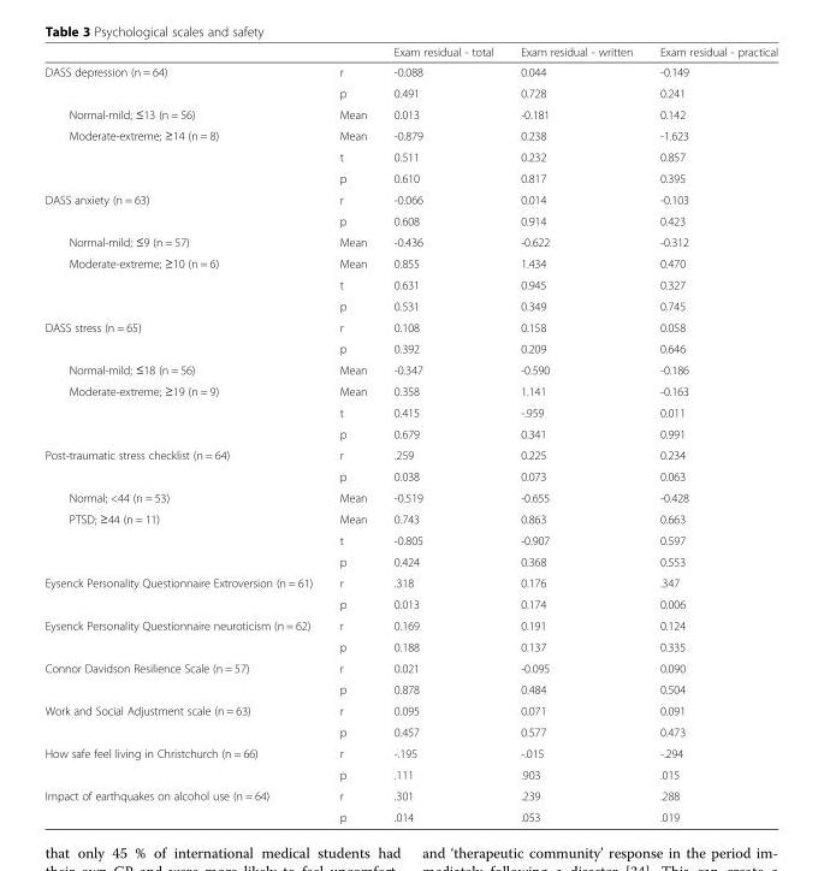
<table><thead><tr><td></td><td></td><td>Exam residual - total</td><td>Exam residual - written</td><td>Exam residual - practical</td></tr></thead><tbody><tr><td rowspan="2">DASS depression (n = 64)</td><td>r</td><td>-0.088</td><td>0.044</td><td>-0.149</td></tr><tr><td>p</td><td>0.491</td><td>0.728</td><td>0.241</td></tr><tr><td>Normal-mild; ≤13 (n = 56)</td><td>Mean</td><td>0.013</td><td>-0.181</td><td>0.142</td></tr><tr><td rowspan="3">Moderate-extreme; ≥14 (n = 8)</td><td>Mean</td><td>-0.879</td><td>0.238</td><td>-1.623</td></tr><tr><td>t</td><td>0.511</td><td>0.232</td><td>0.857</td></tr><tr><td>p</td><td>0.610</td><td>0.817</td><td>0.395</td></tr><tr><td rowspan="2">DASS anxiety (n = 63)</td><td>r</td><td>-0.066</td><td>0.014</td><td>-0.103</td></tr><tr><td>p</td><td>0.608</td><td>0.914</td><td>0.423</td></tr><tr><td>Normal-mild; ≤9 (n = 57)</td><td>Mean</td><td>-0.436</td><td>-0.622</td><td>-0.312</td></tr><tr><td rowspan="3">Moderate-extreme; ≥10 (n = 6)</td><td>Mean</td><td>0.855</td><td>1.434</td><td>0.470</td></tr><tr><td>t</td><td>0.631</td><td>0.945</td><td>0.327</td></tr><tr><td>p</td><td>0.531</td><td>0.349</td><td>0.745</td></tr><tr><td rowspan="2">DASS stress (n = 65)</td><td>r</td><td>0.108</td><td>0.158</td><td>0.058</td></tr><tr><td>p</td><td>0.392</td><td>0.209</td><td>0.646</td></tr><tr><td>Normal-mild; ≤18 (n = 56)</td><td>Mean</td><td>-0.347</td><td>-0.590</td><td>-0.186</td></tr><tr><td rowspan="3">Moderate-extreme; ≥19 (n = 9)</td><td>Mean</td><td>0.358</td><td>1.141</td><td>-0.163</td></tr><tr><td>t</td><td>0.415</td><td>-.959</td><td>0.011</td></tr><tr><td>p</td><td>0.679</td><td>0.341</td><td>0.991</td></tr><tr><td rowspan="2">Post-traumatic stress checklist (n = 64)</td><td>r</td><td>.259</td><td>0.225</td><td>0.234</td></tr><tr><td>p</td><td>0.038</td><td>0.073</td><td>0.063</td></tr><tr><td>Normal; &lt;44 (n = 53)</td><td>Mean</td><td>-0.519</td><td>-0.655</td><td>-0.428</td></tr><tr><td rowspan="3">PTSD; ≥44 (n = 11)</td><td>Mean</td><td>0.743</td><td>0.863</td><td>0.663</td></tr><tr><td>t</td><td>-0.805</td><td>-0.907</td><td>0.597</td></tr><tr><td>p</td><td>0.424</td><td>0.368</td><td>0.553</td></tr><tr><td rowspan="2">Eysenck Personality Questionnaire Extroversion (n = 61)</td><td>r</td><td>.318</td><td>0.176</td><td>.347</td></tr><tr><td>p</td><td>0.013</td><td>0.174</td><td>0.006</td></tr><tr><td rowspan="2">Eysenck Personality Questionnaire neuroticism (n = 62)</td><td>r</td><td>0.169</td><td>0.191</td><td>0.124</td></tr><tr><td>p</td><td>0.188</td><td>0.137</td><td>0.335</td></tr><tr><td rowspan="2">Connor Davidson Resilience Scale (n = 57)</td><td>r</td><td>0.021</td><td>-0.095</td><td>0.090</td></tr><tr><td>p</td><td>0.878</td><td>0.484</td><td>0.504</td></tr><tr><td rowspan="2">Work and Social Adjustment scale (n = 63)</td><td>r</td><td>0.095</td><td>0.071</td><td>0.091</td></tr><tr><td>p</td><td>0.457</td><td>0.577</td><td>0.473</td></tr><tr><td rowspan="2">How safe feel living in Christchurch (n = 66)</td><td>r</td><td>-.195</td><td>-.015</td><td>-.294</td></tr><tr><td>p</td><td>.111</td><td>.903</td><td>.015</td></tr><tr><td rowspan="2">Impact of earthquakes on alcohol use (n = 64)</td><td>r</td><td>.301</td><td>.239</td><td>.288</td></tr><tr><td>p</td><td>.014</td><td>.053</td><td>.019</td></tr></tbody></table>